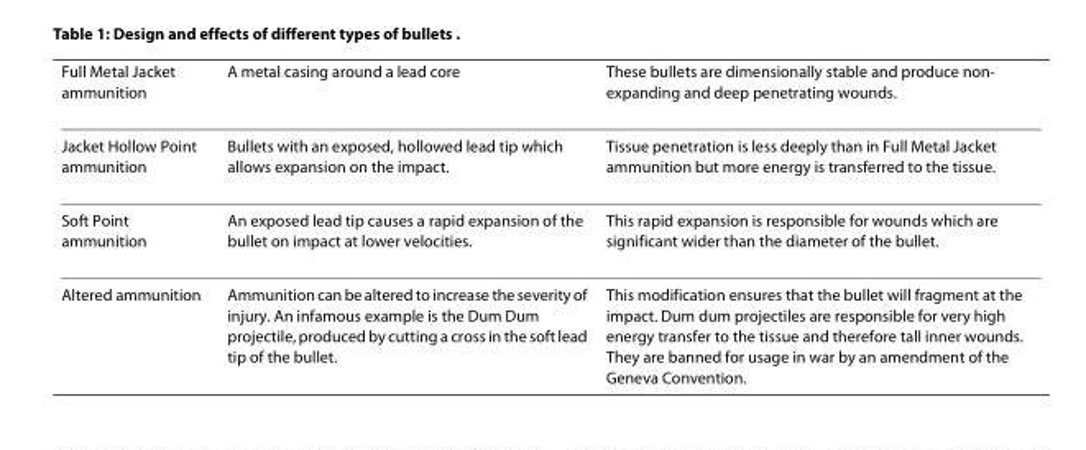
<table><thead><tr><td>Full Metal Jacket ammunition</td><td>A metal casing around a lead core</td><td>These bullets are dimensionally stable and produce non- expanding and deep penetrating wounds.</td></tr></thead><tbody><tr><td>Jacket Hollow Point ammunition</td><td>Bullets with an exposed, hollowed lead tip which allows expansion on the impact.</td><td>Tissue penetration is less deeply than in Full Metal Jacket ammunition but more energy is transferred to the tissue.</td></tr><tr><td>Soft Point ammunition</td><td>An exposed lead tip causes a rapid expansion of the bullet on impact at lower velocities.</td><td>This rapid expansion is responsible for wounds which are significant wider than the diameter of the bullet.</td></tr><tr><td>Altered ammunition</td><td>Ammunition can be altered to increase the severity of injury. An infamous example is the Dum Dum projectile, produced by cutting a cross in the soft lead tip of the bullet.</td><td>This modification ensures that the bullet will fragment at the impact. Dum dum projectiles are responsible for very high energy transfer to the tissue and therefore tall inner wounds. They are banned for usage in war by an amendment of the Geneva Convention.</td></tr></tbody></table>